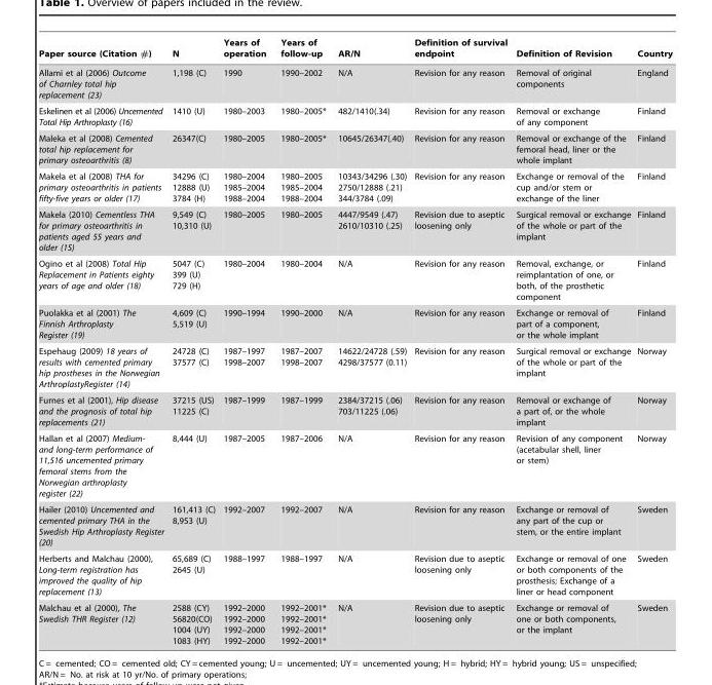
<table><thead><tr><td>Paper source (Citation #)</td><td>N</td><td>Years of operation</td><td>Years of follow-up</td><td>AR/N</td><td>Definition of survival endpoint</td><td>Definition of Revision</td><td>Country</td></tr></thead><tbody><tr><td>Allami et al (2006) Outcome of Charnley total hip replacement (23)</td><td>1,198 (C)</td><td>1990</td><td>1990–2002</td><td>N/A</td><td>Revision for any reason</td><td>Removal of original components</td><td>England</td></tr><tr><td>Eskelinen et al (2006) Uncemented Total Hip Arthroplasty (16)</td><td>1410 (U)</td><td>1980–2003</td><td>1980–2005*</td><td>482/1410(.34)</td><td>Revision for any reason</td><td>Removal or exchange of any component</td><td>Finland</td></tr><tr><td>Maleka et al (2008) Cemented total hip replacement for primary osteoarthritis (8)</td><td>26347(C)</td><td>1980–2005</td><td>1980–2005*</td><td>10645/26347(.40)</td><td>Revision for any reason</td><td>Removal or exchange of the femoral head, liner or the whole implant</td><td>Finland</td></tr><tr><td>Makela et al (2008) THA for primary osteoarthritis in patients fifty-five years or older (17)</td><td>34296 (C) 12888 (U) 3784 (H)</td><td>1980–2004 1985–2004 1988–2004</td><td>1980–2005 1985–2004 1988–2004</td><td>10343/34296 (.30) 2750/12888 (.21) 344/3784 (.09)</td><td>Revision for any reason</td><td>Exchange or removal of the cup and/or stem or exchange of the liner</td><td>Finland</td></tr><tr><td>Makela (2010) Cementless THA for primary osteoarthritis in patients aged 55 years and older (15)</td><td>9,549 (C) 10,310 (U)</td><td>1980–2005</td><td>1980–2005</td><td>4447/9549 (.47) 2610/10310 (.25)</td><td>Revision due to aseptic loosening only</td><td>Surgical removal or exchange of the whole or part of the implant</td><td>Finland</td></tr><tr><td>Ogino et al (2008) Total Hip Replacement in Patients eighty years of age and older (18)</td><td>5047 (C) 399 (U) 729 (H)</td><td>1980–2004</td><td>1980–2004</td><td>N/A</td><td>Revision for any reason</td><td>Removal, exchange, or reimplantation of one, or both, of the prosthetic component</td><td>Finland</td></tr><tr><td>Puolakka et al (2001) The Finnish Arthroplasty Register (19)</td><td>4,609 (C) 5,519 (U)</td><td>1990–1994</td><td>1990–2000</td><td>N/A</td><td>Revision for any reason</td><td>Exchange or removal of part of a component, or the whole implant</td><td>Finland</td></tr><tr><td>Espehaug (2009) 18 years of results with cemented primary hip prostheses in the Norwegian ArthroplastyRegister (14)</td><td>24728 (C) 37577 (C)</td><td>1987–1997 1998–2007</td><td>1987–2007 1998–2007</td><td>14622/24728 (.59) 4298/37577 (0.11)</td><td>Revision for any reason</td><td>Surgical removal or exchange of the whole or part of the implant</td><td>Norway</td></tr><tr><td>Furnes et al (2001), Hip disease and the prognosis of total hip replacements (21)</td><td>37215 (US) 11225 (C)</td><td>1987–1999</td><td>1987–1999</td><td>2384/37215 (.06) 703/11225 (.06)</td><td>Revision for any reason</td><td>Removal or exchange of a part of, or the whole implant</td><td>Norway</td></tr><tr><td>Hallan et al (2007) Medium- and long-term performance of 11,516 uncemented primary femoral stems from the Norwegian arthroplasty register (22)</td><td>8,444 (U)</td><td>1987–2005</td><td>1987–2006</td><td>N/A</td><td>Revision for any reason</td><td>Revision of any component (acetabular shell, liner or stem)</td><td>Norway</td></tr><tr><td>Hailer (2010) Uncemented and cemented primary THA in the Swedish Hip Arthroplasty Register (20)</td><td>161,413 (C) 8,953 (U)</td><td>1992–2007</td><td>1992–2007</td><td>N/A</td><td>Revision for any reason</td><td>Exchange or removal of any part of the cup or stem, or the entire implant</td><td>Sweden</td></tr><tr><td>Herberts and Malchau (2000), Long-term registration has improved the quality of hip replacement (13)</td><td>65,689 (C) 2645 (U)</td><td>1988–1997</td><td>1988–1997</td><td>N/A</td><td>Revision due to aseptic loosening only</td><td>Exchange or removal of one or both components of the prosthesis; Exchange of a liner or head component</td><td>Sweden</td></tr><tr><td>Malchau et al (2000), The Swedish THR Register (12)</td><td>2588 (CY) 56820(CO) 1004 (UY) 1083 (HY)</td><td>1992–2000 1992–2000 1992–2000 1992–2000</td><td>1992–2001* 1992–2001* 1992–2001* 1992–2001*</td><td>N/A</td><td>Revision due to aseptic loosening only</td><td>Exchange or removal of one or both components, or the implant</td><td>Sweden</td></tr></tbody></table>